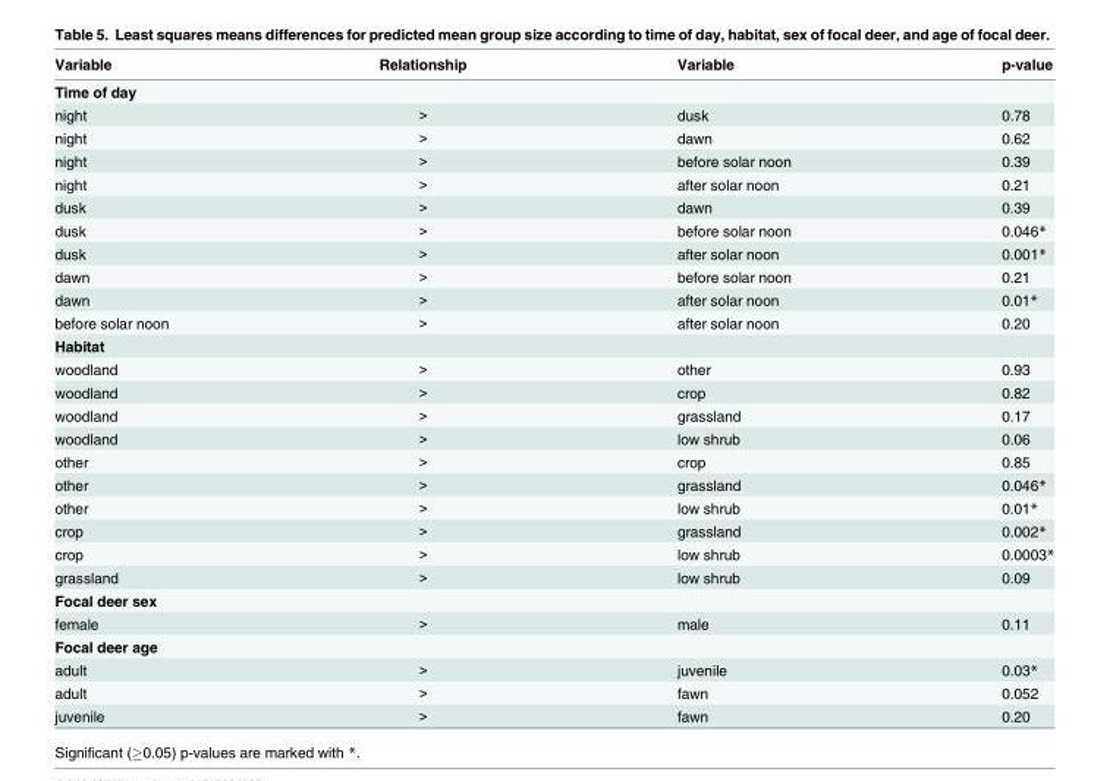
<table><thead><tr><td>Variable</td><td>Relationship</td><td>Variable</td><td>p-value</td></tr></thead><tbody><tr><td colspan="4">Time of day</td></tr><tr><td>night</td><td>&gt;</td><td>dusk</td><td>0.78</td></tr><tr><td>night</td><td>&gt;</td><td>dawn</td><td>0.62</td></tr><tr><td>night</td><td>&gt;</td><td>before solar noon</td><td>0.39</td></tr><tr><td>night</td><td>&gt;</td><td>after solar noon</td><td>0.21</td></tr><tr><td>dusk</td><td>&gt;</td><td>dawn</td><td>0.39</td></tr><tr><td>dusk</td><td>&gt;</td><td>before solar noon</td><td>0.046*</td></tr><tr><td>dusk</td><td>&gt;</td><td>after solar noon</td><td>0.001*</td></tr><tr><td>dawn</td><td>&gt;</td><td>before solar noon</td><td>0.21</td></tr><tr><td>dawn</td><td>&gt;</td><td>after solar noon</td><td>0.01*</td></tr><tr><td>before solar noon</td><td>&gt;</td><td>after solar noon</td><td>0.20</td></tr><tr><td colspan="4">Habitat</td></tr><tr><td>woodland</td><td>&gt;</td><td>other</td><td>0.93</td></tr><tr><td>woodland</td><td>&gt;</td><td>crop</td><td>0.82</td></tr><tr><td>woodland</td><td>&gt;</td><td>grassland</td><td>0.17</td></tr><tr><td>woodland</td><td>&gt;</td><td>low shrub</td><td>0.06</td></tr><tr><td>other</td><td>&gt;</td><td>crop</td><td>0.85</td></tr><tr><td>other</td><td>&gt;</td><td>grassland</td><td>0.046*</td></tr><tr><td>other</td><td>&gt;</td><td>low shrub</td><td>0.01*</td></tr><tr><td>crop</td><td>&gt;</td><td>grassland</td><td>0.002*</td></tr><tr><td>crop</td><td>&gt;</td><td>low shrub</td><td>0.0003*</td></tr><tr><td>grassland</td><td>&gt;</td><td>low shrub</td><td>0.09</td></tr><tr><td colspan="4">Focal deer sex</td></tr><tr><td>female</td><td>&gt;</td><td>male</td><td>0.11</td></tr><tr><td colspan="4">Focal deer age</td></tr><tr><td>adult</td><td>&gt;</td><td>juvenile</td><td>0.03*</td></tr><tr><td>adult</td><td>&gt;</td><td>fawn</td><td>0.052</td></tr><tr><td>juvenile</td><td>&gt;</td><td>fawn</td><td>0.20</td></tr></tbody></table>